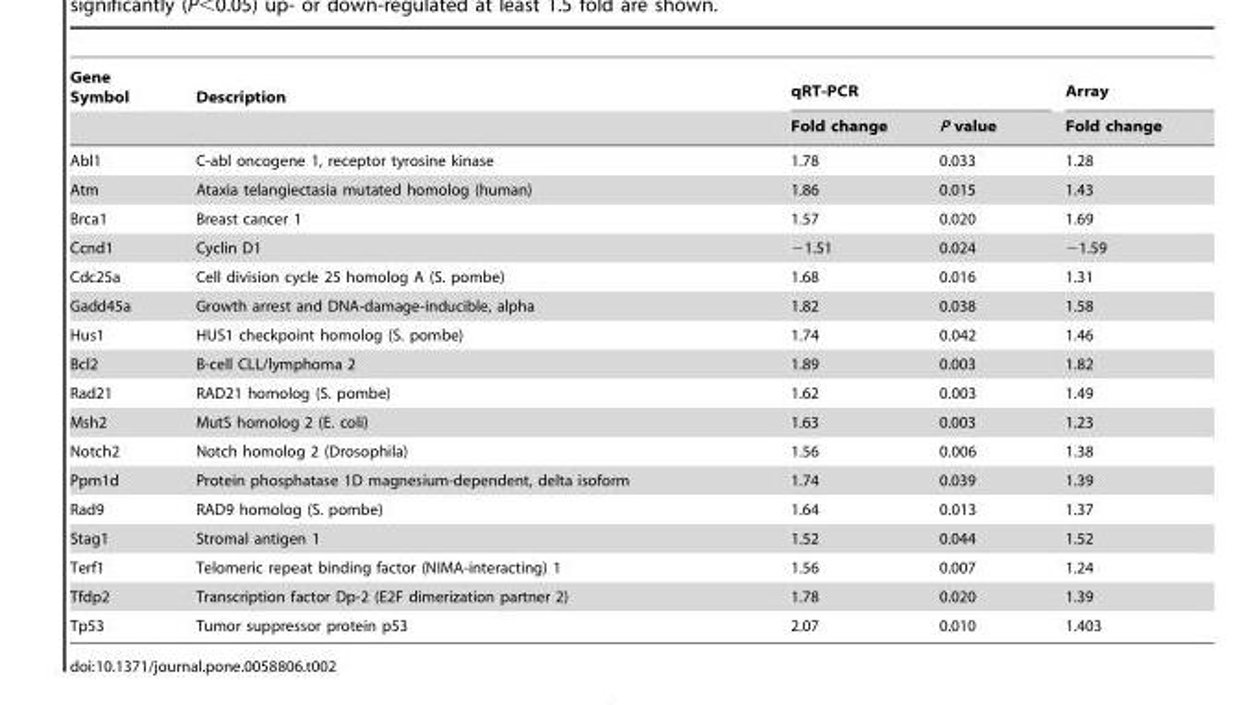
<table><thead><tr><td rowspan="2">Gene Symbol</td><td rowspan="2">Description</td><td colspan="2">qRT-PCR</td><td rowspan="2">Array Fold change</td></tr><tr><td>Fold change</td><td>P value</td></tr></thead><tbody><tr><td>Abl1</td><td>C-abl oncogene 1, receptor tyrosine kinase</td><td>1.78</td><td>0.033</td><td>1.28</td></tr><tr><td>Atm</td><td>Ataxia telangiectasia mutated homolog (human)</td><td>1.86</td><td>0.015</td><td>1.43</td></tr><tr><td>Brca1</td><td>Breast cancer 1</td><td>1.57</td><td>0.020</td><td>1.69</td></tr><tr><td>Ccnd1</td><td>Cyclin D1</td><td>−1.51</td><td>0.024</td><td>−1.59</td></tr><tr><td>Cdc25a</td><td>Cell division cycle 25 homolog A (S. pombe)</td><td>1.68</td><td>0.016</td><td>1.31</td></tr><tr><td>Gadd45a</td><td>Growth arrest and DNA-damage-inducible, alpha</td><td>1.82</td><td>0.038</td><td>1.58</td></tr><tr><td>Hus1</td><td>HUS1 checkpoint homolog (S. pombe)</td><td>1.74</td><td>0.042</td><td>1.46</td></tr><tr><td>Bcl2</td><td>B-cell CLL/lymphoma 2</td><td>1.89</td><td>0.003</td><td>1.82</td></tr><tr><td>Rad21</td><td>RAD21 homolog (S. pombe)</td><td>1.62</td><td>0.003</td><td>1.49</td></tr><tr><td>Msh2</td><td>MutS homolog 2 (E. coli)</td><td>1.63</td><td>0.003</td><td>1.23</td></tr><tr><td>Notch2</td><td>Notch homolog 2 (Drosophila)</td><td>1.56</td><td>0.006</td><td>1.38</td></tr><tr><td>Ppm1d</td><td>Protein phosphatase 1D magnesium-dependent, delta isoform</td><td>1.74</td><td>0.039</td><td>1.39</td></tr><tr><td>Rad9</td><td>RAD9 homolog (S. pombe)</td><td>1.64</td><td>0.013</td><td>1.37</td></tr><tr><td>Stag1</td><td>Stromal antigen 1</td><td>1.52</td><td>0.044</td><td>1.52</td></tr><tr><td>Terf1</td><td>Telomeric repeat binding factor (NIMA-interacting) 1</td><td>1.56</td><td>0.007</td><td>1.24</td></tr><tr><td>Tfdp2</td><td>Transcription factor Dp-2 (E2F dimerization partner 2)</td><td>1.78</td><td>0.020</td><td>1.39</td></tr><tr><td>Tp53</td><td>Tumor suppressor protein p53</td><td>2.07</td><td>0.010</td><td>1.403</td></tr></tbody></table>